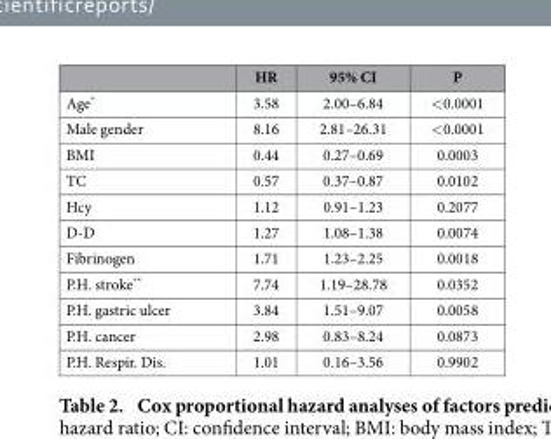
<table><thead><tr><td></td><td>HR</td><td>95% CI</td><td>P</td></tr></thead><tbody><tr><td>Age*</td><td>3.58</td><td>2.00–6.84</td><td>&lt; 0.0001</td></tr><tr><td>Male gender</td><td>8.16</td><td>2.81–26.31</td><td>&lt; 0.0001</td></tr><tr><td>BMI</td><td>0.44</td><td>0.27–0.69</td><td>0.0003</td></tr><tr><td>TC</td><td>0.57</td><td>0.37–0.87</td><td>0.0102</td></tr><tr><td>Hcy</td><td>1.12</td><td>0.91–1.23</td><td>0.2077</td></tr><tr><td>D-D</td><td>1.27</td><td>1.08–1.38</td><td>0.0074</td></tr><tr><td>Fibrinogen</td><td>1.71</td><td>1.23–2.25</td><td>0.0018</td></tr><tr><td>P.H. stroke**</td><td>7.74</td><td>1.19–28.78</td><td>0.0352</td></tr><tr><td>P.H. gastric ulcer</td><td>3.84</td><td>1.51–9.07</td><td>0.0058</td></tr><tr><td>P.H. cancer</td><td>2.98</td><td>0.83–8.24</td><td>0.0873</td></tr><tr><td>P.H. Respir. Dis.</td><td>1.01</td><td>0.16–3.56</td><td>0.9902</td></tr></tbody></table>